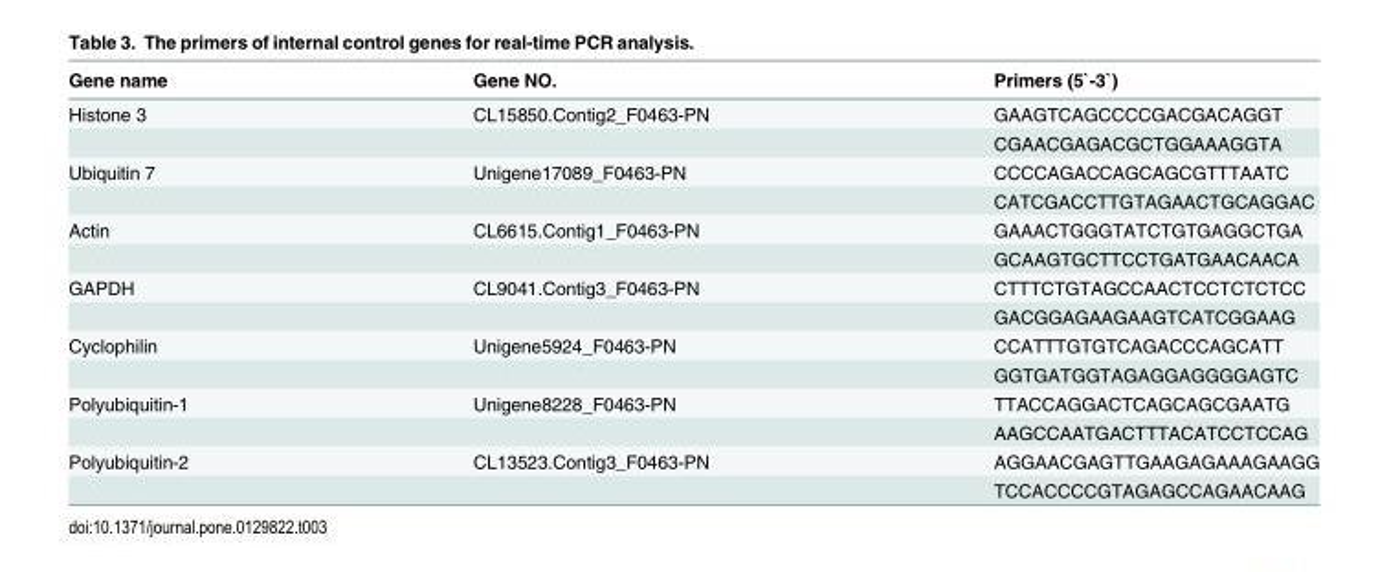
<table><thead><tr><td>Gene name</td><td>Gene NO.</td><td>Primers (5`-3`)</td></tr></thead><tbody><tr><td rowspan="2">Histone 3</td><td>CL15850.Contig2_F0463-PN</td><td>GAAGTCAGCCCCGACGACAGGT</td></tr><tr><td></td><td>CGAACGAGACGCTGGAAAGGTA</td></tr><tr><td rowspan="2">Ubiquitin 7</td><td>Unigene17089_F0463-PN</td><td>CCCCAGACCAGCAGCGTTTAATC</td></tr><tr><td></td><td>CATCGACCTTGTAGAACTGCAGGAC</td></tr><tr><td rowspan="2">Actin</td><td>CL6615.Contig1_F0463-PN</td><td>GAAACTGGGTATCTGTGAGGCTGA</td></tr><tr><td></td><td>GCAAGTGCTTCCTGATGAACAACA</td></tr><tr><td rowspan="2">GAPDH</td><td>CL9041.Contig3_F0463-PN</td><td>CTTTCTGTAGCCAACTCCTCTCTCC</td></tr><tr><td></td><td>GACGGAGAAGAAGTCATCGGAAG</td></tr><tr><td rowspan="2">Cyclophilin</td><td>Unigene5924_F0463-PN</td><td>CCATTTGTGTCAGACCCAGCATT</td></tr><tr><td></td><td>GGTGATGGTAGAGGAGGGGAGTC</td></tr><tr><td rowspan="2">Polyubiquitin-1</td><td>Unigene8228_F0463-PN</td><td>TTACCAGGACTCAGCAGCGAATG</td></tr><tr><td></td><td>AAGCCAATGACTTTACATCCTCCAG</td></tr><tr><td rowspan="2">Polyubiquitin-2</td><td>CL13523.Contig3_F0463-PN</td><td>AGGAACGAGTTGAAGAGAAAGAAGG</td></tr><tr><td></td><td>TCCACCCCGTAGAGCCAGAACAAG</td></tr></tbody></table>